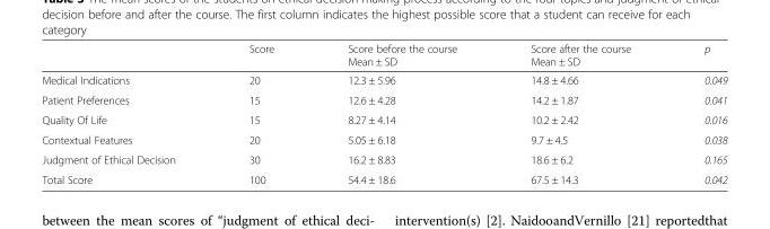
<table><thead><tr><td></td><td>Score</td><td>Score before the course Mean ± SD</td><td>Score after the course Mean ± SD</td><td>p</td></tr></thead><tbody><tr><td>Medical Indications</td><td>20</td><td>12.3 ± 5.96</td><td>14.8 ± 4.66</td><td>0.049</td></tr><tr><td>Patient Preferences</td><td>15</td><td>12.6 ± 4.28</td><td>14.2 ± 1.87</td><td>0.041</td></tr><tr><td>Quality Of Life</td><td>15</td><td>8.27 ± 4.14</td><td>10.2 ± 2.42</td><td>0.016</td></tr><tr><td>Contextual Features</td><td>20</td><td>5.05 ± 6.18</td><td>9.7 ± 4.5</td><td>0.038</td></tr><tr><td>Judgment of Ethical Decision</td><td>30</td><td>16.2 ± 8.83</td><td>18.6 ± 6.2</td><td>0.165</td></tr><tr><td>Total Score</td><td>100</td><td>54.4 ± 18.6</td><td>67.5 ± 14.3</td><td>0.042</td></tr></tbody></table>